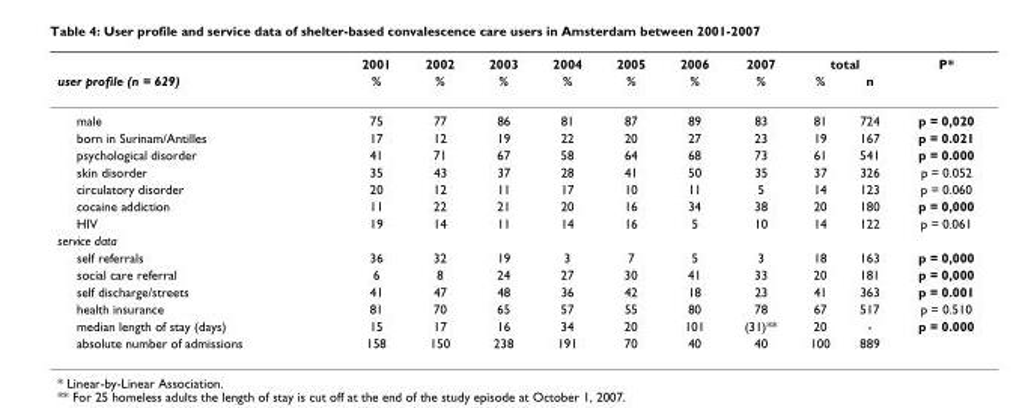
<table><thead><tr><td rowspan="2">user profile (n = 629)</td><td rowspan="2">2001 %</td><td rowspan="2">2002 %</td><td rowspan="2">2003 %</td><td rowspan="2">2004 %</td><td rowspan="2">2005 %</td><td rowspan="2">2006 %</td><td rowspan="2">2007 %</td><td colspan="2">total</td><td rowspan="2">P*</td></tr><tr><td>%</td><td>n</td></tr></thead><tbody><tr><td>male</td><td>75</td><td>77</td><td>86</td><td>81</td><td>87</td><td>89</td><td>83</td><td>81</td><td>724</td><td>p = 0,020</td></tr><tr><td>born in Surinam/Antilles</td><td>17</td><td>12</td><td>19</td><td>22</td><td>20</td><td>27</td><td>23</td><td>19</td><td>167</td><td>p = 0.021</td></tr><tr><td>psychological disorder</td><td>41</td><td>71</td><td>67</td><td>58</td><td>64</td><td>68</td><td>73</td><td>61</td><td>541</td><td>p = 0.000</td></tr><tr><td>skin disorder</td><td>35</td><td>43</td><td>37</td><td>28</td><td>41</td><td>50</td><td>35</td><td>37</td><td>326</td><td>p = 0.052</td></tr><tr><td>circulatory disorder</td><td>20</td><td>12</td><td>11</td><td>17</td><td>10</td><td>11</td><td>5</td><td>14</td><td>123</td><td>p = 0.060</td></tr><tr><td>cocaine addiction</td><td>11</td><td>22</td><td>21</td><td>20</td><td>16</td><td>34</td><td>38</td><td>20</td><td>180</td><td>p = 0,000</td></tr><tr><td>HIV</td><td>19</td><td>14</td><td>11</td><td>14</td><td>16</td><td>5</td><td>10</td><td>14</td><td>122</td><td>p = 0.061</td></tr><tr><td colspan="11">service data</td></tr><tr><td>self referrals</td><td>36</td><td>32</td><td>19</td><td>3</td><td>7</td><td>5</td><td>3</td><td>18</td><td>163</td><td>p = 0,000</td></tr><tr><td>social care referral</td><td>6</td><td>8</td><td>24</td><td>27</td><td>30</td><td>41</td><td>33</td><td>20</td><td>181</td><td>p = 0,000</td></tr><tr><td>self discharge/streets</td><td>41</td><td>47</td><td>48</td><td>36</td><td>42</td><td>18</td><td>23</td><td>41</td><td>363</td><td>p = 0.001</td></tr><tr><td>health insurance</td><td>81</td><td>70</td><td>65</td><td>57</td><td>55</td><td>80</td><td>78</td><td>67</td><td>517</td><td>p = 0.510</td></tr><tr><td>median length of stay (days)</td><td>15</td><td>17</td><td>16</td><td>34</td><td>20</td><td>101</td><td>(31)**</td><td>20</td><td>-</td><td>p = 0.000</td></tr><tr><td>absolute number of admissions</td><td>158</td><td>150</td><td>238</td><td>191</td><td>70</td><td>40</td><td>40</td><td>100</td><td>889</td><td></td></tr></tbody></table>